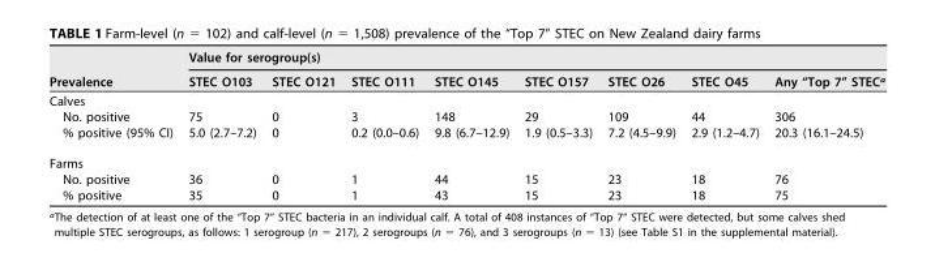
<table><thead><tr><td rowspan="2">Prevalence</td><td colspan="8">Value for serogroup(s)</td></tr><tr><td>STEC O103</td><td>STEC O121</td><td>STEC O111</td><td>STEC O145</td><td>STEC O157</td><td>STEC O26</td><td>STEC O45</td><td>Any “Top 7” STEC<sup>a</sup></td></tr></thead><tbody><tr><td colspan="9">Calves</td></tr><tr><td>No. positive</td><td>75</td><td>0</td><td>3</td><td>148</td><td>29</td><td>109</td><td>44</td><td>306</td></tr><tr><td>% positive (95% CI)</td><td>5.0 (2.7–7.2)</td><td>0</td><td>0.2 (0.0–0.6)</td><td>9.8 (6.7–12.9)</td><td>1.9 (0.5–3.3)</td><td>7.2 (4.5–9.9)</td><td>2.9 (1.2–4.7)</td><td>20.3 (16.1–24.5)</td></tr><tr><td colspan="9">Farms</td></tr><tr><td>No. positive</td><td>36</td><td>0</td><td>1</td><td>44</td><td>15</td><td>23</td><td>18</td><td>76</td></tr><tr><td>% positive</td><td>35</td><td>0</td><td>1</td><td>43</td><td>15</td><td>23</td><td>18</td><td>75</td></tr></tbody></table>